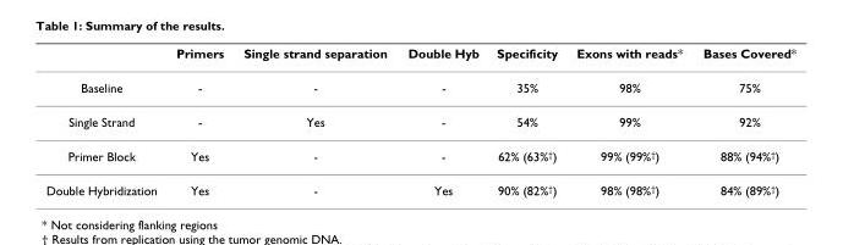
<table><thead><tr><td></td><td>Primers</td><td>Single strand separation</td><td>Double Hyb</td><td>Specificity</td><td>Exons with reads*</td><td>Bases Covered*</td></tr></thead><tbody><tr><td>Baseline</td><td>-</td><td>-</td><td>-</td><td>35%</td><td>98%</td><td>75%</td></tr><tr><td>Single Strand</td><td>-</td><td>Yes</td><td>-</td><td>54%</td><td>99%</td><td>92%</td></tr><tr><td>Primer Block</td><td>Yes</td><td>-</td><td>-</td><td>62% (63%<sup>†</sup>)</td><td>99% (99%<sup>†</sup>)</td><td>88% (94%<sup>†</sup>)</td></tr><tr><td>Double Hybridization</td><td>Yes</td><td>-</td><td>Yes</td><td>90% (82%<sup>†</sup>)</td><td>98% (98%<sup>†</sup>)</td><td>84% (89%<sup>†</sup>)</td></tr></tbody></table>